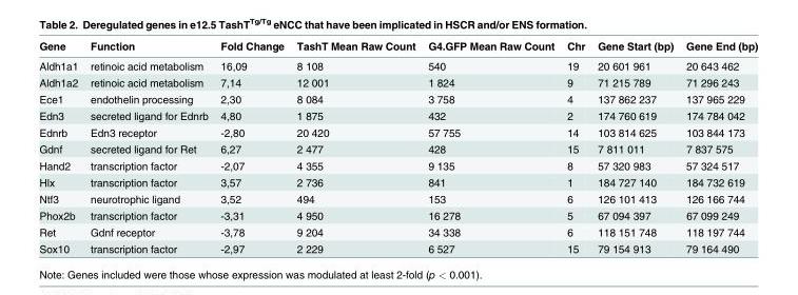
<table><thead><tr><td>Gene</td><td>Function</td><td>Fold Change</td><td>TashT Mean Raw Count</td><td>G4.GFP Mean Raw Count</td><td>Chr</td><td>Gene Start (bp)</td><td>Gene End (bp)</td></tr></thead><tbody><tr><td>Aldh1a1</td><td>retinoic acid metabolism</td><td>16,09</td><td>8 108</td><td>540</td><td>19</td><td>20 601 961</td><td>20 643 462</td></tr><tr><td>Aldh1a2</td><td>retinoic acid metabolism</td><td>7,14</td><td>12 001</td><td>1 824</td><td>9</td><td>71 215 789</td><td>71 296 243</td></tr><tr><td>Ece1</td><td>endothelin processing</td><td>2,30</td><td>8 084</td><td>3 758</td><td>4</td><td>137 862 237</td><td>137 965 229</td></tr><tr><td>Edn3</td><td>secreted ligand for Ednrb</td><td>4,80</td><td>1 875</td><td>432</td><td>2</td><td>174 760 619</td><td>174 784 042</td></tr><tr><td>Ednrb</td><td>Edn3 receptor</td><td>-2,80</td><td>20 420</td><td>57 755</td><td>14</td><td>103 814 625</td><td>103 844 173</td></tr><tr><td>Gdnf</td><td>secreted ligand for Ret</td><td>6,27</td><td>2 477</td><td>428</td><td>15</td><td>7 811 011</td><td>7 837 575</td></tr><tr><td>Hand2</td><td>transcription factor</td><td>-2,07</td><td>4 355</td><td>9 135</td><td>8</td><td>57 320 983</td><td>57 324 517</td></tr><tr><td>Hlx</td><td>transcription factor</td><td>3,57</td><td>2 736</td><td>841</td><td>1</td><td>184 727 140</td><td>184 732 619</td></tr><tr><td>Ntf3</td><td>neurotrophic ligand</td><td>3,52</td><td>494</td><td>153</td><td>6</td><td>126 101 413</td><td>126 166 744</td></tr><tr><td>Phox2b</td><td>transcription factor</td><td>-3,31</td><td>4 950</td><td>16 278</td><td>5</td><td>67 094 397</td><td>67 099 249</td></tr><tr><td>Ret</td><td>Gdnf receptor</td><td>-3,78</td><td>9 204</td><td>34 338</td><td>6</td><td>118 151 748</td><td>118 197 744</td></tr><tr><td>Sox10</td><td>transcription factor</td><td>-2,97</td><td>2 229</td><td>6 527</td><td>15</td><td>79 154 913</td><td>79 164 490</td></tr></tbody></table>